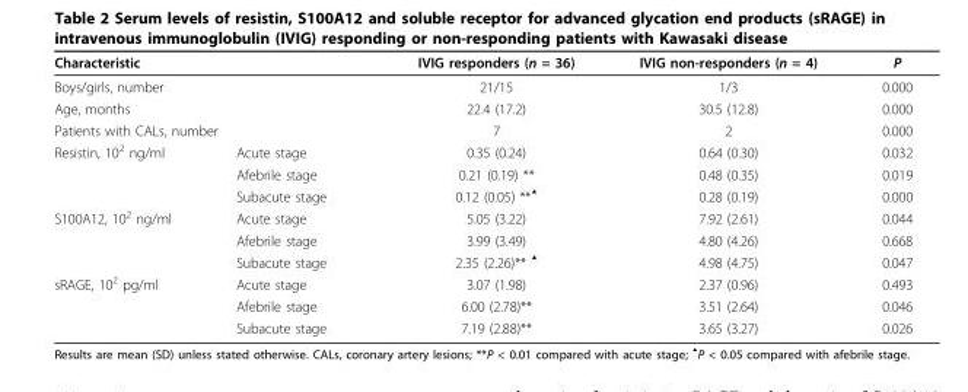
<table><thead><tr><td colspan="2">Characteristic</td><td>IVIG responders (n = 36)</td><td>IVIG non-responders (n = 4)</td><td>P</td></tr></thead><tbody><tr><td colspan="2">Boys/girls, number</td><td>21/15</td><td>1/3</td><td>0.000</td></tr><tr><td colspan="2">Age, months</td><td>22.4 (17.2)</td><td>30.5 (12.8)</td><td>0.000</td></tr><tr><td colspan="2">Patients with CALs, number</td><td>7</td><td>2</td><td>0.000</td></tr><tr><td rowspan="3">Resistin, 10<sup>2</sup> ng/ml</td><td>Acute stage</td><td>0.35 (0.24)</td><td>0.64 (0.30)</td><td>0.032</td></tr><tr><td>Afebrile stage</td><td>0.21 (0.19) **</td><td>0.48 (0.35)</td><td>0.019</td></tr><tr><td>Subacute stage</td><td>0.12 (0.05) **<sup>▲</sup></td><td>0.28 (0.19)</td><td>0.000</td></tr><tr><td rowspan="3">S100A12, 10<sup>2</sup> ng/ml</td><td>Acute stage</td><td>5.05 (3.22)</td><td>7.92 (2.61)</td><td>0.044</td></tr><tr><td>Afebrile stage</td><td>3.99 (3.49)</td><td>4.80 (4.26)</td><td>0.668</td></tr><tr><td>Subacute stage</td><td>2.35 (2.26)** <sup>▲</sup></td><td>4.98 (4.75)</td><td>0.047</td></tr><tr><td rowspan="3">sRAGE, 10<sup>2</sup> pg/ml</td><td>Acute stage</td><td>3.07 (1.98)</td><td>2.37 (0.96)</td><td>0.493</td></tr><tr><td>Afebrile stage</td><td>6.00 (2.78)**</td><td>3.51 (2.64)</td><td>0.046</td></tr><tr><td>Subacute stage</td><td>7.19 (2.88)**</td><td>3.65 (3.27)</td><td>0.026</td></tr></tbody></table>